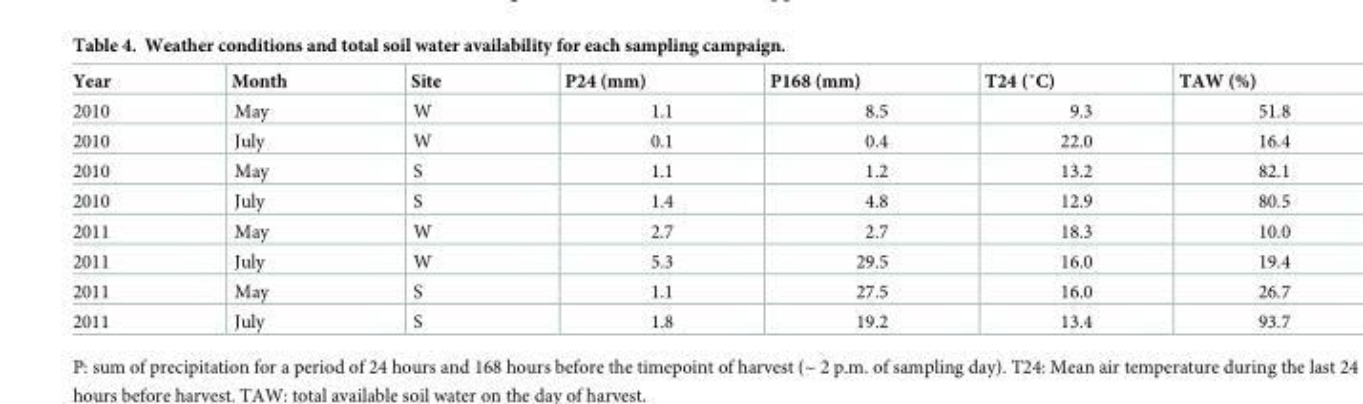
<table><thead><tr><td>Year</td><td>Month</td><td>Site</td><td>P24 (mm)</td><td>P168 (mm)</td><td>T24 (˚C)</td><td>TAW (%)</td></tr></thead><tbody><tr><td>2010</td><td>May</td><td>W</td><td>1.1</td><td>8.5</td><td>9.3</td><td>51.8</td></tr><tr><td>2010</td><td>July</td><td>W</td><td>0.1</td><td>0.4</td><td>22.0</td><td>16.4</td></tr><tr><td>2010</td><td>May</td><td>S</td><td>1.1</td><td>1.2</td><td>13.2</td><td>82.1</td></tr><tr><td>2010</td><td>July</td><td>S</td><td>1.4</td><td>4.8</td><td>12.9</td><td>80.5</td></tr><tr><td>2011</td><td>May</td><td>W</td><td>2.7</td><td>2.7</td><td>18.3</td><td>10.0</td></tr><tr><td>2011</td><td>July</td><td>W</td><td>5.3</td><td>29.5</td><td>16.0</td><td>19.4</td></tr><tr><td>2011</td><td>May</td><td>S</td><td>1.1</td><td>27.5</td><td>16.0</td><td>26.7</td></tr><tr><td>2011</td><td>July</td><td>S</td><td>1.8</td><td>19.2</td><td>13.4</td><td>93.7</td></tr></tbody></table>